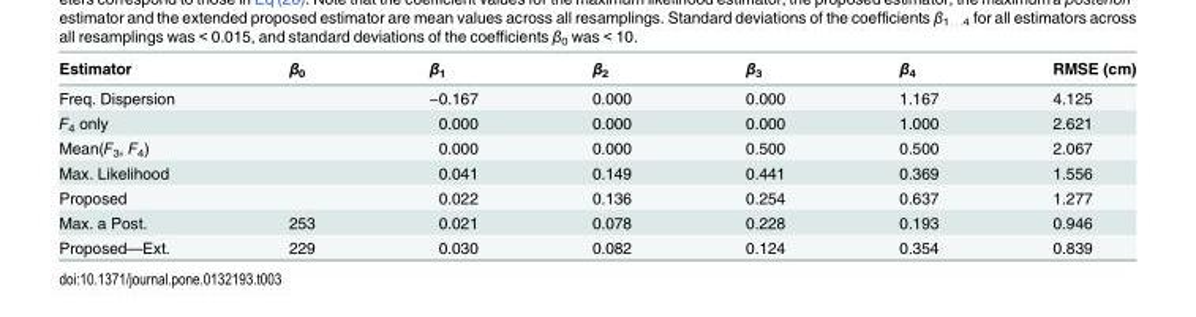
<table><thead><tr><td>Estimator</td><td>β<sub>0</sub></td><td>β<sub>1</sub></td><td>β<sub>2</sub></td><td>β<sub>3</sub></td><td>β<sub>4</sub></td><td>RMSE (cm)</td></tr></thead><tbody><tr><td>Freq. Dispersion</td><td></td><td>−0.167</td><td>0.000</td><td>0.000</td><td>1.167</td><td>4.125</td></tr><tr><td>F<sub>4</sub> only</td><td></td><td>0.000</td><td>0.000</td><td>0.000</td><td>1.000</td><td>2.621</td></tr><tr><td>Mean(F<sub>3</sub>, F<sub>4</sub>)</td><td></td><td>0.000</td><td>0.000</td><td>0.500</td><td>0.500</td><td>2.067</td></tr><tr><td>Max. Likelihood</td><td></td><td>0.041</td><td>0.149</td><td>0.441</td><td>0.369</td><td>1.556</td></tr><tr><td>Proposed</td><td></td><td>0.022</td><td>0.136</td><td>0.254</td><td>0.637</td><td>1.277</td></tr><tr><td>Max. a Post.</td><td>253</td><td>0.021</td><td>0.078</td><td>0.228</td><td>0.193</td><td>0.946</td></tr><tr><td>Proposed—Ext.</td><td>229</td><td>0.030</td><td>0.082</td><td>0.124</td><td>0.354</td><td>0.839</td></tr></tbody></table>